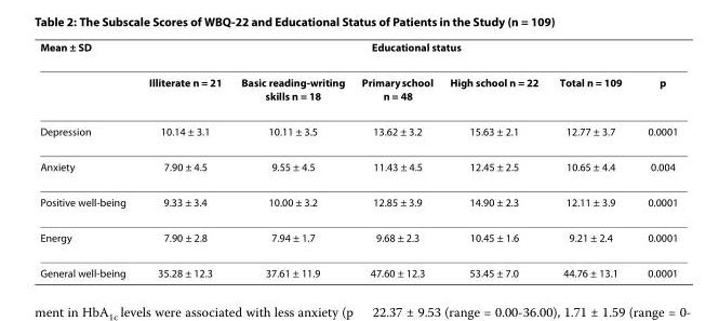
<table><thead><tr><td rowspan="2">Mean ± SD</td><td colspan="6">Educational status</td></tr><tr><td>Illiterate n = 21</td><td>Basic reading-writing skills n = 18</td><td>Primary school n = 48</td><td>High school n = 22</td><td>Total n = 109</td><td>p</td></tr></thead><tbody><tr><td>Depression</td><td>10.14 ± 3.1</td><td>10.11 ± 3.5</td><td>13.62 ± 3.2</td><td>15.63 ± 2.1</td><td>12.77 ± 3.7</td><td>0.0001</td></tr><tr><td>Anxiety</td><td>7.90 ± 4.5</td><td>9.55 ± 4.5</td><td>11.43 ± 4.5</td><td>12.45 ± 2.5</td><td>10.65 ± 4.4</td><td>0.004</td></tr><tr><td>Positive well-being</td><td>9.33 ± 3.4</td><td>10.00 ± 3.2</td><td>12.85 ± 3.9</td><td>14.90 ± 2.3</td><td>12.11 ± 3.9</td><td>0.0001</td></tr><tr><td>Energy</td><td>7.90 ± 2.8</td><td>7.94 ± 1.7</td><td>9.68 ± 2.3</td><td>10.45 ± 1.6</td><td>9.21 ± 2.4</td><td>0.0001</td></tr><tr><td>General well-being</td><td>35.28 ± 12.3</td><td>37.61 ± 11.9</td><td>47.60 ± 12.3</td><td>53.45 ± 7.0</td><td>44.76 ± 13.1</td><td>0.0001</td></tr></tbody></table>